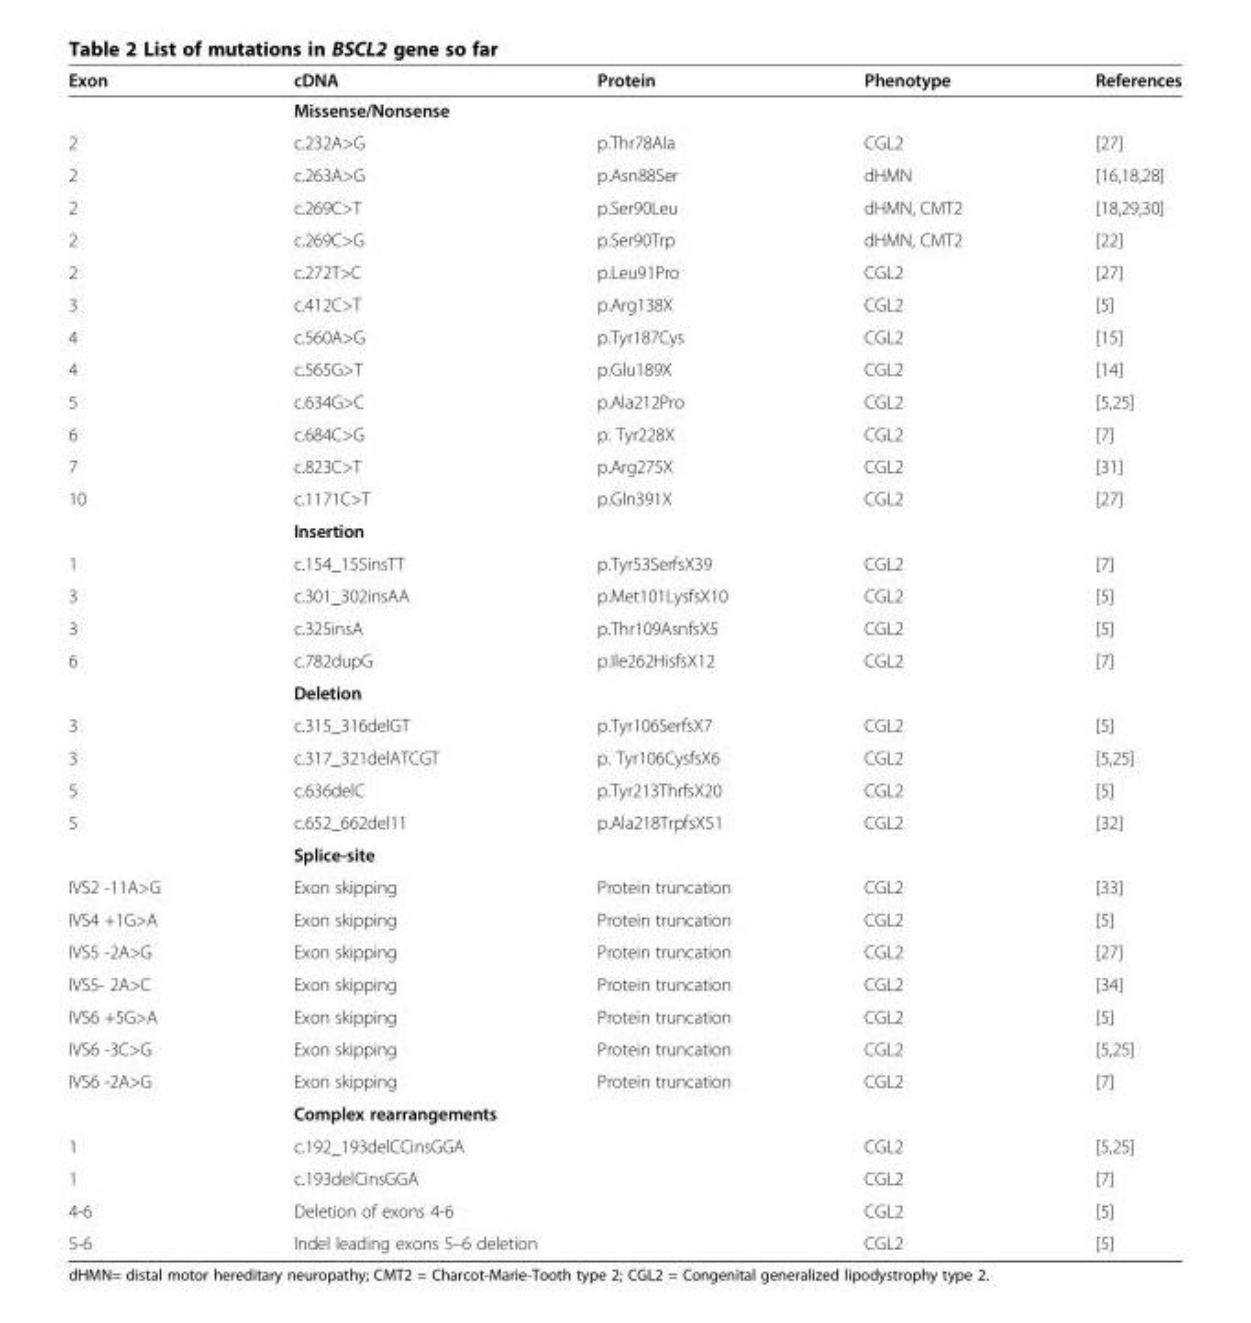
<table><thead><tr><td>Exon</td><td>cDNA</td><td>Protein</td><td>Phenotype</td><td>References</td></tr></thead><tbody><tr><td></td><td colspan="2">Missense/Nonsense</td><td></td><td></td></tr><tr><td>2</td><td>c.232A&gt;G</td><td>p.Thr78Ala</td><td>CGL2</td><td>[27]</td></tr><tr><td>2</td><td>c.263A&gt;G</td><td>p.Asn88Ser</td><td>dHMN</td><td>[16,18,28]</td></tr><tr><td>2</td><td>c.269C&gt;T</td><td>p.Ser90Leu</td><td>dHMN, CMT2</td><td>[18,29,30]</td></tr><tr><td>2</td><td>c.269C&gt;G</td><td>p.Ser90Trp</td><td>dHMN, CMT2</td><td>[22]</td></tr><tr><td>2</td><td>c.272T&gt;C</td><td>p.Leu91Pro</td><td>CGL2</td><td>[27]</td></tr><tr><td>3</td><td>c.412C&gt;T</td><td>p.Arg138X</td><td>CGL2</td><td>[5]</td></tr><tr><td>4</td><td>c.560A&gt;G</td><td>p.Tyr187Cys</td><td>CGL2</td><td>[15]</td></tr><tr><td>4</td><td>c.565G&gt;T</td><td>p.Glu189X</td><td>CGL2</td><td>[14]</td></tr><tr><td>5</td><td>c.634G&gt;C</td><td>p.Ala212Pro</td><td>CGL2</td><td>[5,25]</td></tr><tr><td>6</td><td>c.684C&gt;G</td><td>p. Tyr228X</td><td>CGL2</td><td>[7]</td></tr><tr><td>7</td><td>c.823C&gt;T</td><td>p.Arg275X</td><td>CGL2</td><td>[31]</td></tr><tr><td rowspan="2">10</td><td>c.1171C&gt;T</td><td>p.Gln391X</td><td>CGL2</td><td>[27]</td></tr><tr><td colspan="2">Insertion</td><td></td><td></td></tr><tr><td>1</td><td>c.154_155insTT</td><td>p.Tyr53SerfsX39</td><td>CGL2</td><td>[7]</td></tr><tr><td>3</td><td>c.301_302insAA</td><td>p.Met101LysfsX10</td><td>CGL2</td><td>[5]</td></tr><tr><td>3</td><td>c.325insA</td><td>p.Thr109AsnfsX5</td><td>CGL2</td><td>[5]</td></tr><tr><td rowspan="2">6</td><td>c.782dupG</td><td>p.Ile262HisfsX12</td><td>CGL2</td><td>[7]</td></tr><tr><td colspan="2">Deletion</td><td></td><td></td></tr><tr><td>3</td><td>c.315_316delGT</td><td>p.Tyr106SerfsX7</td><td>CGL2</td><td>[5]</td></tr><tr><td>3</td><td>c.317_321delATCGT</td><td>p. Tyr106CysfsX6</td><td>CGL2</td><td>[5,25]</td></tr><tr><td>5</td><td>c.636delC</td><td>p.Tyr213ThrfsX20</td><td>CGL2</td><td>[5]</td></tr><tr><td rowspan="2">5</td><td>c.652_662del11</td><td>p.Ala218TrpfsX51</td><td>CGL2</td><td>[32]</td></tr><tr><td colspan="2">Splice-site</td><td></td><td></td></tr><tr><td>IVS2 -11A&gt;G</td><td>Exon skipping</td><td>Protein truncation</td><td>CGL2</td><td>[33]</td></tr><tr><td>IVS4 +1G&gt;A</td><td>Exon skipping</td><td>Protein truncation</td><td>CGL2</td><td>[5]</td></tr><tr><td>IVS5 -2A&gt;G</td><td>Exon skipping</td><td>Protein truncation</td><td>CGL2</td><td>[27]</td></tr><tr><td>IVS5- 2A&gt;C</td><td>Exon skipping</td><td>Protein truncation</td><td>CGL2</td><td>[34]</td></tr><tr><td>IVS6 +5G&gt;A</td><td>Exon skipping</td><td>Protein truncation</td><td>CGL2</td><td>[5]</td></tr><tr><td>IVS6 -3C&gt;G</td><td>Exon skipping</td><td>Protein truncation</td><td>CGL2</td><td>[5,25]</td></tr><tr><td rowspan="2">IVS6 -2A&gt;G</td><td>Exon skipping</td><td>Protein truncation</td><td>CGL2</td><td>[7]</td></tr><tr><td colspan="3">Complex rearrangements</td><td></td></tr><tr><td>1</td><td>c.192_193delCCinsGGA</td><td></td><td>CGL2</td><td>[5,25]</td></tr><tr><td>1</td><td>c.193delCinsGGA</td><td></td><td>CGL2</td><td>[7]</td></tr><tr><td>4-6</td><td>Deletion of exons 4-6</td><td></td><td>CGL2</td><td>[5]</td></tr><tr><td>5-6</td><td colspan="2">Indel leading exons 5–6 deletion</td><td>CGL2</td><td>[5]</td></tr></tbody></table>